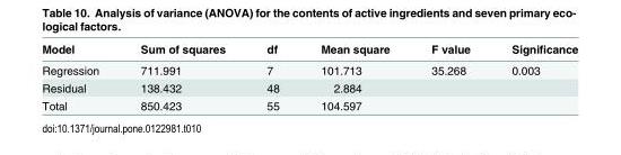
<table><thead><tr><td>Model</td><td>Sum of squares</td><td>df</td><td>Mean square</td><td>F value</td><td>Significance</td></tr></thead><tbody><tr><td>Regression</td><td>711.991</td><td>7</td><td>101.713</td><td>35.268</td><td>0.003</td></tr><tr><td>Residual</td><td>138.432</td><td>48</td><td>2.884</td><td></td><td></td></tr><tr><td>Total</td><td>850.423</td><td>55</td><td>104.597</td><td></td><td></td></tr></tbody></table>